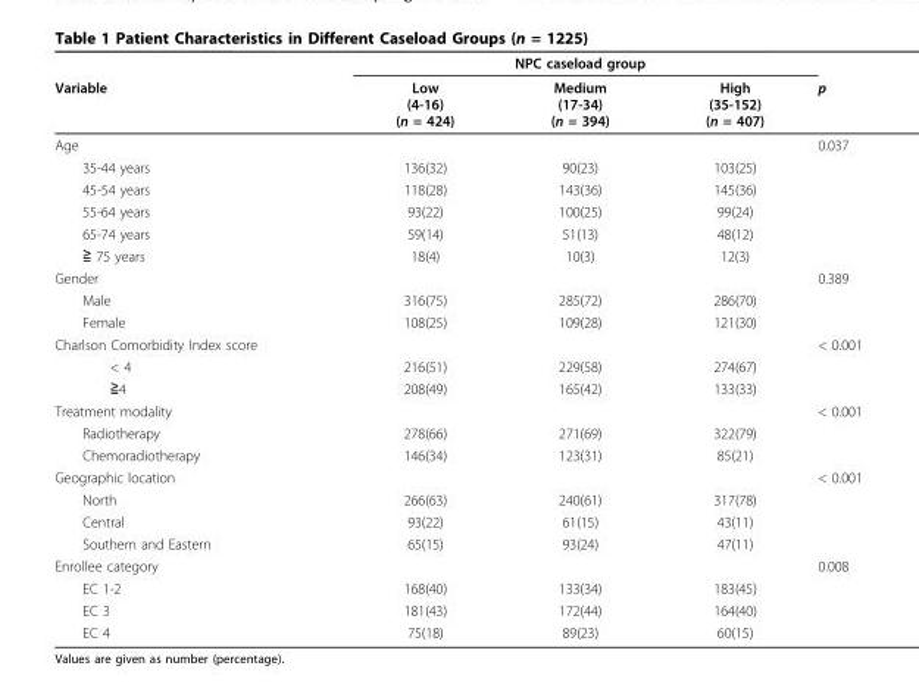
<table><thead><tr><td rowspan="2">Variable</td><td colspan="3">NPC caseload group</td><td rowspan="2">p</td></tr><tr><td>Low (4-16) (n = 424)</td><td>Medium (17-34) (n = 394)</td><td>High (35-152) (n = 407)</td></tr></thead><tbody><tr><td>Age</td><td></td><td></td><td></td><td>0.037</td></tr><tr><td>35-44 years</td><td>136(32)</td><td>90(23)</td><td>103(25)</td><td></td></tr><tr><td>45-54 years</td><td>118(28)</td><td>143(36)</td><td>145(36)</td><td></td></tr><tr><td>55-64 years</td><td>93(22)</td><td>100(25)</td><td>99(24)</td><td></td></tr><tr><td>65-74 years</td><td>59(14)</td><td>51(13)</td><td>48(12)</td><td></td></tr><tr><td>≧ 75 years</td><td>18(4)</td><td>10(3)</td><td>12(3)</td><td></td></tr><tr><td>Gender</td><td></td><td></td><td></td><td>0.389</td></tr><tr><td>Male</td><td>316(75)</td><td>285(72)</td><td>286(70)</td><td></td></tr><tr><td>Female</td><td>108(25)</td><td>109(28)</td><td>121(30)</td><td></td></tr><tr><td>Charlson Comorbidity Index score</td><td></td><td></td><td></td><td>&lt; 0.001</td></tr><tr><td>&lt; 4</td><td>216(51)</td><td>229(58)</td><td>274(67)</td><td></td></tr><tr><td>≧4</td><td>208(49)</td><td>165(42)</td><td>133(33)</td><td></td></tr><tr><td>Treatment modality</td><td></td><td></td><td></td><td>&lt; 0.001</td></tr><tr><td>Radiotherapy</td><td>278(66)</td><td>271(69)</td><td>322(79)</td><td></td></tr><tr><td>Chemoradiotherapy</td><td>146(34)</td><td>123(31)</td><td>85(21)</td><td></td></tr><tr><td>Geographic location</td><td></td><td></td><td></td><td>&lt; 0.001</td></tr><tr><td>North</td><td>266(63)</td><td>240(61)</td><td>317(78)</td><td></td></tr><tr><td>Central</td><td>93(22)</td><td>61(15)</td><td>43(11)</td><td></td></tr><tr><td>Southern and Eastern</td><td>65(15)</td><td>93(24)</td><td>47(11)</td><td></td></tr><tr><td>Enrollee category</td><td></td><td></td><td></td><td>0.008</td></tr><tr><td>EC 1-2</td><td>168(40)</td><td>133(34)</td><td>183(45)</td><td></td></tr><tr><td>EC 3</td><td>181(43)</td><td>172(44)</td><td>164(40)</td><td></td></tr><tr><td>EC 4</td><td>75(18)</td><td>89(23)</td><td>60(15)</td><td></td></tr></tbody></table>